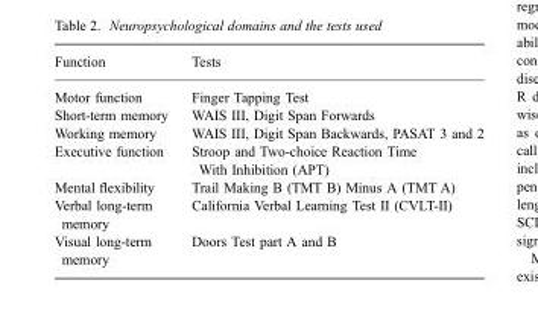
<table><thead><tr><td>Function</td><td>Tests</td></tr></thead><tbody><tr><td>Motor function</td><td>Finger Tapping Test</td></tr><tr><td>Short-term memory</td><td>WAIS III, Digit Span Forwards</td></tr><tr><td>Working memory</td><td>WAIS III, Digit Span Backwards, PASAT 3 and 2</td></tr><tr><td>Executive function</td><td>Stroop and Two-choice Reaction Time With Inhibition (APT)</td></tr><tr><td>Mental flexibility</td><td>Trail Making B (TMT B) Minus A (TMT A)</td></tr><tr><td>Verbal long-term memory</td><td>California Verbal Learning Test II (CVLT-II)</td></tr><tr><td>Visual long-term memory</td><td>Doors Test part A and B</td></tr></tbody></table>